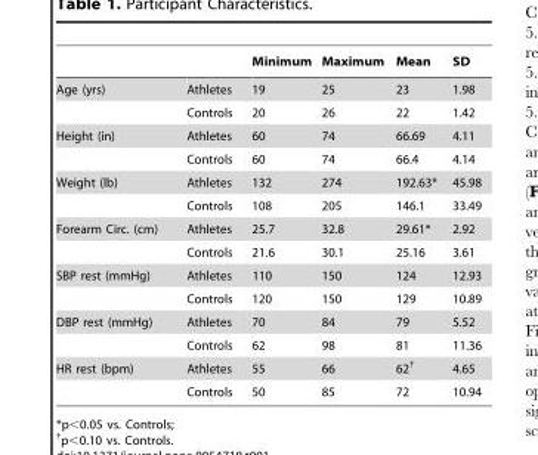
<table><thead><tr><td></td><td></td><td>Minimum</td><td>Maximum</td><td>Mean</td><td>SD</td></tr></thead><tbody><tr><td rowspan="2">Age (yrs)</td><td>Athletes</td><td>19</td><td>25</td><td>23</td><td>1.98</td></tr><tr><td>Controls</td><td>20</td><td>26</td><td>22</td><td>1.42</td></tr><tr><td rowspan="2">Height (in)</td><td>Athletes</td><td>60</td><td>74</td><td>66.69</td><td>4.11</td></tr><tr><td>Controls</td><td>60</td><td>74</td><td>66.4</td><td>4.14</td></tr><tr><td rowspan="2">Weight (lb)</td><td>Athletes</td><td>132</td><td>274</td><td>192.63*</td><td>45.98</td></tr><tr><td>Controls</td><td>108</td><td>205</td><td>146.1</td><td>33.49</td></tr><tr><td rowspan="2">Forearm Circ. (cm)</td><td>Athletes</td><td>25.7</td><td>32.8</td><td>29.61*</td><td>2.92</td></tr><tr><td>Controls</td><td>21.6</td><td>30.1</td><td>25.16</td><td>3.61</td></tr><tr><td rowspan="2">SBP rest (mmHg)</td><td>Athletes</td><td>110</td><td>150</td><td>124</td><td>12.93</td></tr><tr><td>Controls</td><td>120</td><td>150</td><td>129</td><td>10.89</td></tr><tr><td rowspan="2">DBP rest (mmHg)</td><td>Athletes</td><td>70</td><td>84</td><td>79</td><td>5.52</td></tr><tr><td>Controls</td><td>62</td><td>98</td><td>81</td><td>11.36</td></tr><tr><td rowspan="2">HR rest (bpm)</td><td>Athletes</td><td>55</td><td>66</td><td>62†</td><td>4.65</td></tr><tr><td>Controls</td><td>50</td><td>85</td><td>72</td><td>10.94</td></tr></tbody></table>